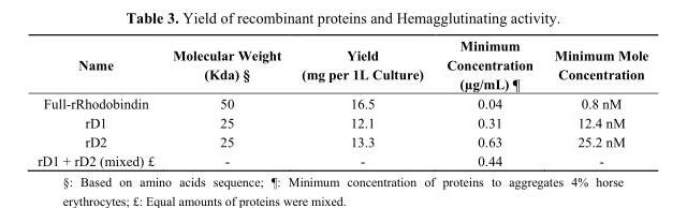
<table><thead><tr><td>Name</td><td>Molecular Weight (Kda) §</td><td>Yield (mg per 1L Culture)</td><td>Minimum Concentration (µg/mL) ¶</td><td>Minimum Mole Concentration</td></tr></thead><tbody><tr><td>Full-rRhodobindin</td><td>50</td><td>16.5</td><td>0.04</td><td>0.8 nM</td></tr><tr><td>rD1</td><td>25</td><td>12.1</td><td>0.31</td><td>12.4 nM</td></tr><tr><td>rD2</td><td>25</td><td>13.3</td><td>0.63</td><td>25.2 nM</td></tr><tr><td>rD1 + rD2 (mixed) £</td><td>-</td><td>-</td><td>0.44</td><td>-</td></tr></tbody></table>